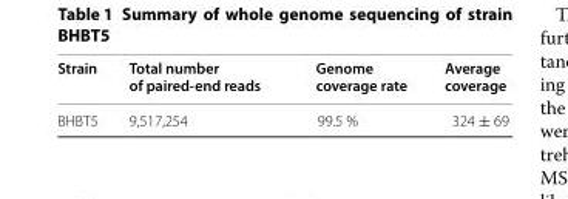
<table><thead><tr><td>Strain</td><td>Total number of paired‑end reads</td><td>Genome coverage rate</td><td>Average coverage</td></tr></thead><tbody><tr><td>BHBT5</td><td>9,517,254</td><td>99.5 %</td><td>324 ± 69</td></tr></tbody></table>